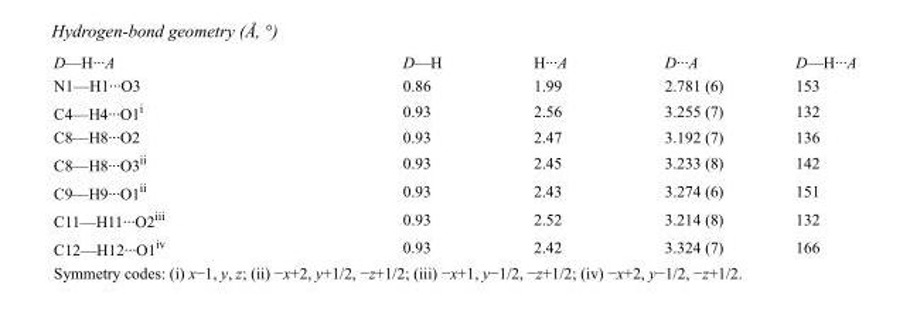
<table><tbody><tr><td>D—H···A</td><td>D—H</td><td>H···A</td><td>D···A</td><td>D—H···A</td></tr><tr><td>N1—H1···O3</td><td>0.86</td><td>1.99</td><td>2.781 (6)</td><td>153</td></tr><tr><td>C4—H4···O1<sup>i</sup></td><td>0.93</td><td>2.56</td><td>3.255 (7)</td><td>132</td></tr><tr><td>C8—H8···O2</td><td>0.93</td><td>2.47</td><td>3.192 (7)</td><td>136</td></tr><tr><td>C8—H8···O3<sup>ii</sup></td><td>0.93</td><td>2.45</td><td>3.233 (8)</td><td>142</td></tr><tr><td>C9—H9···O1<sup>ii</sup></td><td>0.93</td><td>2.43</td><td>3.274 (6)</td><td>151</td></tr><tr><td>C11—H11···O2<sup>iii</sup></td><td>0.93</td><td>2.52</td><td>3.214 (8)</td><td>132</td></tr><tr><td>C12—H12···O1<sup>iv</sup></td><td>0.93</td><td>2.42</td><td>3.324 (7)</td><td>166</td></tr></tbody></table>